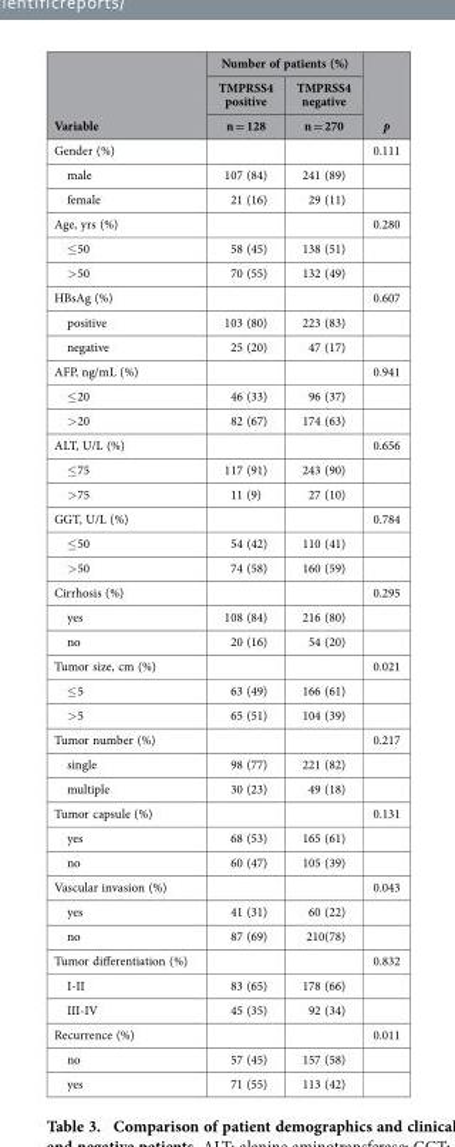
<table><thead><tr><td rowspan="3">Variable</td><td colspan="2">Number of patients (%)</td><td rowspan="3">p</td></tr><tr><td rowspan="2">TMPRSS4 positive n = 128</td><td rowspan="2">TMPRSS4 negative n = 270</td></tr><tr></tr></thead><tbody><tr><td>Gender (%)</td><td></td><td></td><td>0.111</td></tr><tr><td>male</td><td>107 (84)</td><td>241 (89)</td><td></td></tr><tr><td>female</td><td>21 (16)</td><td>29 (11)</td><td></td></tr><tr><td>Age, yrs (%)</td><td></td><td></td><td>0.280</td></tr><tr><td>≤ 50</td><td>58 (45)</td><td>138 (51)</td><td></td></tr><tr><td>&gt; 50</td><td>70 (55)</td><td>132 (49)</td><td></td></tr><tr><td>HBsAg (%)</td><td></td><td></td><td>0.607</td></tr><tr><td>positive</td><td>103 (80)</td><td>223 (83)</td><td></td></tr><tr><td>negative</td><td>25 (20)</td><td>47 (17)</td><td></td></tr><tr><td>AFP, ng/mL (%)</td><td></td><td></td><td>0.941</td></tr><tr><td>≤ 20</td><td>46 (33)</td><td>96 (37)</td><td></td></tr><tr><td>&gt; 20</td><td>82 (67)</td><td>174 (63)</td><td></td></tr><tr><td>ALT, U/L (%)</td><td></td><td></td><td>0.656</td></tr><tr><td>≤ 75</td><td>117 (91)</td><td>243 (90)</td><td></td></tr><tr><td>&gt; 75</td><td>11 (9)</td><td>27 (10)</td><td></td></tr><tr><td>GGT, U/L (%)</td><td></td><td></td><td>0.784</td></tr><tr><td>≤ 50</td><td>54 (42)</td><td>110 (41)</td><td></td></tr><tr><td>&gt; 50</td><td>74 (58)</td><td>160 (59)</td><td></td></tr><tr><td>Cirrhosis (%)</td><td></td><td></td><td>0.295</td></tr><tr><td>yes</td><td>108 (84)</td><td>216 (80)</td><td></td></tr><tr><td>no</td><td>20 (16)</td><td>54 (20)</td><td></td></tr><tr><td>Tumor size, cm (%)</td><td></td><td></td><td>0.021</td></tr><tr><td>≤ 5</td><td>63 (49)</td><td>166 (61)</td><td></td></tr><tr><td>&gt; 5</td><td>65 (51)</td><td>104 (39)</td><td></td></tr><tr><td>Tumor number (%)</td><td></td><td></td><td>0.217</td></tr><tr><td>single</td><td>98 (77)</td><td>221 (82)</td><td></td></tr><tr><td>multiple</td><td>30 (23)</td><td>49 (18)</td><td></td></tr><tr><td>Tumor capsule (%)</td><td></td><td></td><td>0.131</td></tr><tr><td>yes</td><td>68 (53)</td><td>165 (61)</td><td></td></tr><tr><td>no</td><td>60 (47)</td><td>105 (39)</td><td></td></tr><tr><td>Vascular invasion (%)</td><td></td><td></td><td>0.043</td></tr><tr><td>yes</td><td>41 (31)</td><td>60 (22)</td><td></td></tr><tr><td>no</td><td>87 (69)</td><td>210(78)</td><td></td></tr><tr><td>Tumor differentiation (%)</td><td></td><td></td><td>0.832</td></tr><tr><td>I-II</td><td>83 (65)</td><td>178 (66)</td><td></td></tr><tr><td>III-IV</td><td>45 (35)</td><td>92 (34)</td><td></td></tr><tr><td>Recurrence (%)</td><td></td><td></td><td>0.011</td></tr><tr><td>no</td><td>57 (45)</td><td>157 (58)</td><td></td></tr><tr><td>yes</td><td>71 (55)</td><td>113 (42)</td><td></td></tr></tbody></table>